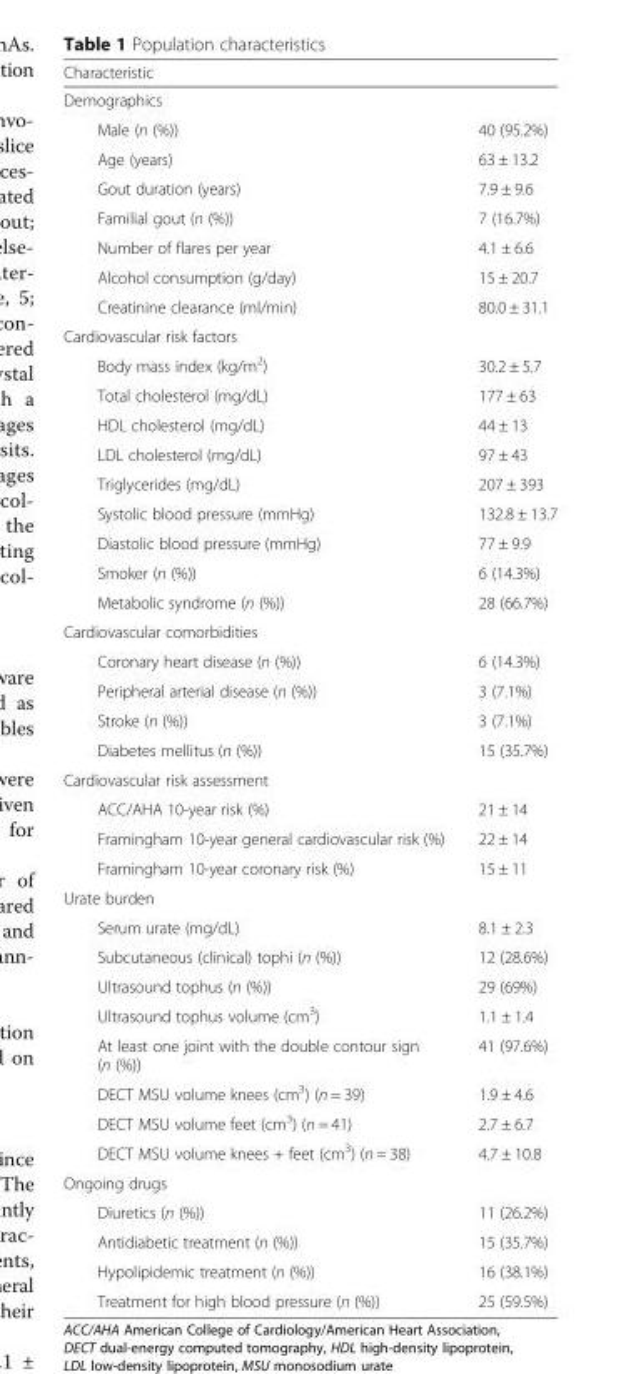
<table><thead><tr><td rowspan="2" colspan="2">Characteristic Demographics</td></tr><tr></tr><tr><td>Male (n (%))</td><td>40 (95.2%)</td></tr></thead><tbody><tr><td>Age (years)</td><td>63 ± 13.2</td></tr><tr><td>Gout duration (years)</td><td>7.9 ± 9.6</td></tr><tr><td>Familial gout (n (%))</td><td>7 (16.7%)</td></tr><tr><td>Number of flares per year</td><td>4.1 ± 6.6</td></tr><tr><td>Alcohol consumption (g/day)</td><td>15 ± 20.7</td></tr><tr><td>Creatinine clearance (ml/min)</td><td>80.0 ± 31.1</td></tr><tr><td colspan="2">Cardiovascular risk factors</td></tr><tr><td>Body mass index (kg/m<sup>2</sup>)</td><td>30.2 ± 5.7</td></tr><tr><td>Total cholesterol (mg/dL)</td><td>177 ± 63</td></tr><tr><td>HDL cholesterol (mg/dL)</td><td>44 ± 13</td></tr><tr><td>LDL cholesterol (mg/dL)</td><td>97 ± 43</td></tr><tr><td>Triglycerides (mg/dL)</td><td>207 ± 393</td></tr><tr><td>Systolic blood pressure (mmHg)</td><td>132.8 ± 13.7</td></tr><tr><td>Diastolic blood pressure (mmHg)</td><td>77 ± 9.9</td></tr><tr><td>Smoker (n (%))</td><td>6 (14.3%)</td></tr><tr><td>Metabolic syndrome (n (%))</td><td>28 (66.7%)</td></tr><tr><td colspan="2">Cardiovascular comorbidities</td></tr><tr><td>Coronary heart disease (n (%))</td><td>6 (14.3%)</td></tr><tr><td>Peripheral arterial disease (n (%))</td><td>3 (7.1%)</td></tr><tr><td>Stroke (n (%))</td><td>3 (7.1%)</td></tr><tr><td>Diabetes mellitus (n (%))</td><td>15 (35.7%)</td></tr><tr><td colspan="2">Cardiovascular risk assessment</td></tr><tr><td>ACC/AHA 10-year risk (%)</td><td>21 ± 14</td></tr><tr><td>Framingham 10-year general cardiovascular risk (%)</td><td>22 ± 14</td></tr><tr><td>Framingham 10-year coronary risk (%)</td><td>15 ± 11</td></tr><tr><td colspan="2">Urate burden</td></tr><tr><td>Serum urate (mg/dL)</td><td>8.1 ± 2.3</td></tr><tr><td>Subcutaneous (clinical) tophi (n (%))</td><td>12 (28.6%)</td></tr><tr><td>Ultrasound tophus (n (%))</td><td>29 (69%)</td></tr><tr><td>Ultrasound tophus volume (cm<sup>3</sup>)</td><td>1.1 ± 1.4</td></tr><tr><td>At least one joint with the double contour sign (n (%))</td><td>41 (97.6%)</td></tr><tr><td>DECT MSU volume knees (cm<sup>3</sup>) (n = 39)</td><td>1.9 ± 4.6</td></tr><tr><td>DECT MSU volume feet (cm<sup>3</sup>) (n = 41)</td><td>2.7 ± 6.7</td></tr><tr><td>DECT MSU volume knees + feet (cm<sup>3</sup>) (n = 38)</td><td>4.7 ± 10.8</td></tr><tr><td colspan="2">Ongoing drugs</td></tr><tr><td>Diuretics (n (%))</td><td>11 (26.2%)</td></tr><tr><td>Antidiabetic treatment (n (%))</td><td>15 (35.7%)</td></tr><tr><td>Hypolipidemic treatment (n (%))</td><td>16 (38.1%)</td></tr><tr><td>Treatment for high blood pressure (n (%))</td><td>25 (59.5%)</td></tr></tbody></table>